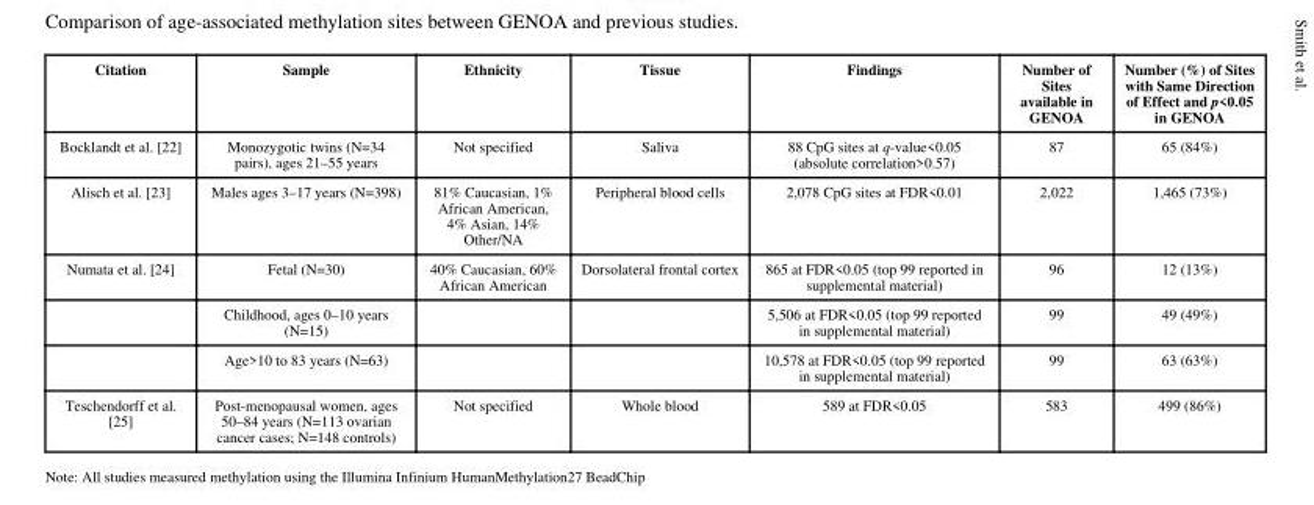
<table><thead><tr><td>Citation</td><td>Sample</td><td>Ethnicity</td><td>Tissue</td><td>Findings</td><td>Number of Sites available in GENOA</td><td>Number (%) of Sites with Same Direction of Effect and p&lt;0.05 in GENOA</td></tr></thead><tbody><tr><td>Bocklandt et al. [22]</td><td>Monozygotic twins (N=34 pairs), ages 21–55 years</td><td>Not specified</td><td>Saliva</td><td>88 CpG sites at q-value&lt;0.05 (absolute correlation&gt;0.57)</td><td>87</td><td>65 (84%)</td></tr><tr><td>Alisch et al. [23]</td><td>Males ages 3–17 years (N=398)</td><td>81% Caucasian, 1% African American, 4% Asian, 14% Other/NA</td><td>Peripheral blood cells</td><td>2,078 CpG sites at FDR&lt;0.01</td><td>2,022</td><td>1,465 (73%)</td></tr><tr><td rowspan="3">Numata et al. [24]</td><td>Fetal (N=30)</td><td>40% Caucasian, 60% African American</td><td>Dorsolateral frontal cortex</td><td>865 at FDR&lt;0.05 (top 99 reported in supplemental material)</td><td>96</td><td>12 (13%)</td></tr><tr><td>Childhood, ages 0–10 years (N=15)</td><td></td><td></td><td>5,506 at FDR&lt;0.05 (top 99 reported in supplemental material)</td><td>99</td><td>49 (49%)</td></tr><tr><td>Age&gt;10 to 83 years (N=63)</td><td></td><td></td><td>10,578 at FDR&lt;0.05 (top 99 reported in supplemental material)</td><td>99</td><td>63 (63%)</td></tr><tr><td>Teschendorff et al. [25]</td><td>Post-menopausal women, ages 50–84 years (N=113 ovarian cancer cases; N=148 controls)</td><td>Not specified</td><td>Whole blood</td><td>589 at FDR&lt;0.05</td><td>583</td><td>499 (86%)</td></tr></tbody></table>